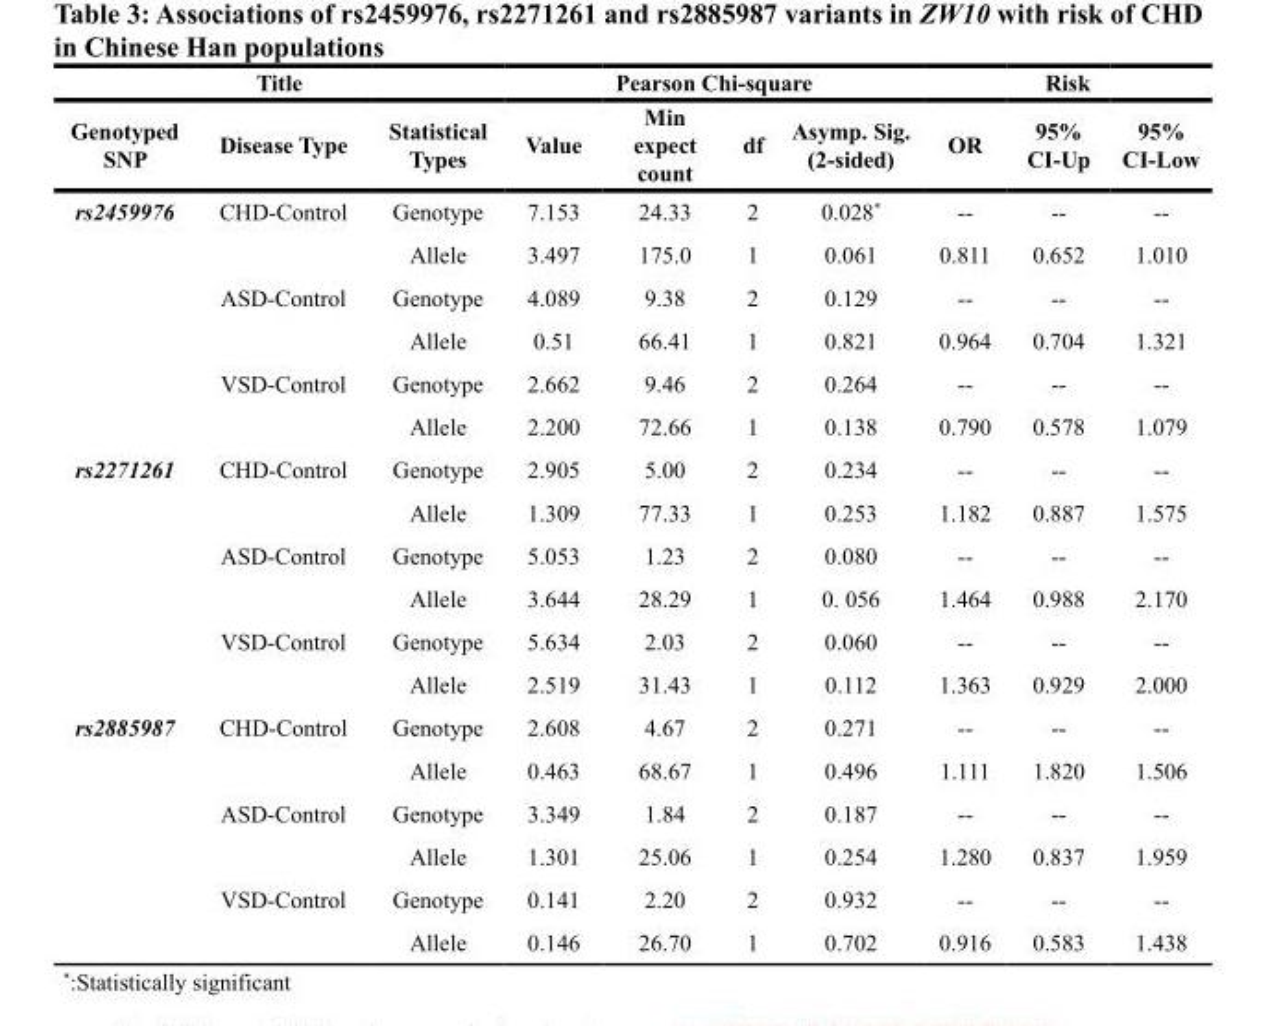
<table><thead><tr><td colspan="3">Title</td><td colspan="4">Pearson Chi-square</td><td colspan="3">Risk</td></tr><tr><td>Genotyped SNP</td><td>Disease Type</td><td>Statistical Types</td><td>Value</td><td>Min expect count</td><td>df</td><td>Asymp. Sig. (2-sided)</td><td>OR</td><td>95% CI-Up</td><td>95% CI-Low</td></tr></thead><tbody><tr><td rowspan="6">rs2459976</td><td>CHD-Control</td><td>Genotype</td><td>7.153</td><td>24.33</td><td>2</td><td>0.028*</td><td>--</td><td>--</td><td>--</td></tr><tr><td></td><td>Allele</td><td>3.497</td><td>175.0</td><td>1</td><td>0.061</td><td>0.811</td><td>0.652</td><td>1.010</td></tr><tr><td>ASD-Control</td><td>Genotype</td><td>4.089</td><td>9.38</td><td>2</td><td>0.129</td><td>--</td><td>--</td><td>--</td></tr><tr><td></td><td>Allele</td><td>0.51</td><td>66.41</td><td>1</td><td>0.821</td><td>0.964</td><td>0.704</td><td>1.321</td></tr><tr><td>VSD-Control</td><td>Genotype</td><td>2.662</td><td>9.46</td><td>2</td><td>0.264</td><td>--</td><td>--</td><td>--</td></tr><tr><td></td><td>Allele</td><td>2.200</td><td>72.66</td><td>1</td><td>0.138</td><td>0.790</td><td>0.578</td><td>1.079</td></tr><tr><td rowspan="6">rs2271261</td><td>CHD-Control</td><td>Genotype</td><td>2.905</td><td>5.00</td><td>2</td><td>0.234</td><td>--</td><td>--</td><td>--</td></tr><tr><td></td><td>Allele</td><td>1.309</td><td>77.33</td><td>1</td><td>0.253</td><td>1.182</td><td>0.887</td><td>1.575</td></tr><tr><td>ASD-Control</td><td>Genotype</td><td>5.053</td><td>1.23</td><td>2</td><td>0.080</td><td>--</td><td>--</td><td>--</td></tr><tr><td></td><td>Allele</td><td>3.644</td><td>28.29</td><td>1</td><td>0. 056</td><td>1.464</td><td>0.988</td><td>2.170</td></tr><tr><td>VSD-Control</td><td>Genotype</td><td>5.634</td><td>2.03</td><td>2</td><td>0.060</td><td>--</td><td>--</td><td>--</td></tr><tr><td></td><td>Allele</td><td>2.519</td><td>31.43</td><td>1</td><td>0.112</td><td>1.363</td><td>0.929</td><td>2.000</td></tr><tr><td rowspan="6">rs2885987</td><td>CHD-Control</td><td>Genotype</td><td>2.608</td><td>4.67</td><td>2</td><td>0.271</td><td>--</td><td>--</td><td>--</td></tr><tr><td></td><td>Allele</td><td>0.463</td><td>68.67</td><td>1</td><td>0.496</td><td>1.111</td><td>1.820</td><td>1.506</td></tr><tr><td>ASD-Control</td><td>Genotype</td><td>3.349</td><td>1.84</td><td>2</td><td>0.187</td><td>--</td><td>--</td><td>--</td></tr><tr><td></td><td>Allele</td><td>1.301</td><td>25.06</td><td>1</td><td>0.254</td><td>1.280</td><td>0.837</td><td>1.959</td></tr><tr><td>VSD-Control</td><td>Genotype</td><td>0.141</td><td>2.20</td><td>2</td><td>0.932</td><td>--</td><td>--</td><td>--</td></tr><tr><td></td><td>Allele</td><td>0.146</td><td>26.70</td><td>1</td><td>0.702</td><td>0.916</td><td>0.583</td><td>1.438</td></tr></tbody></table>